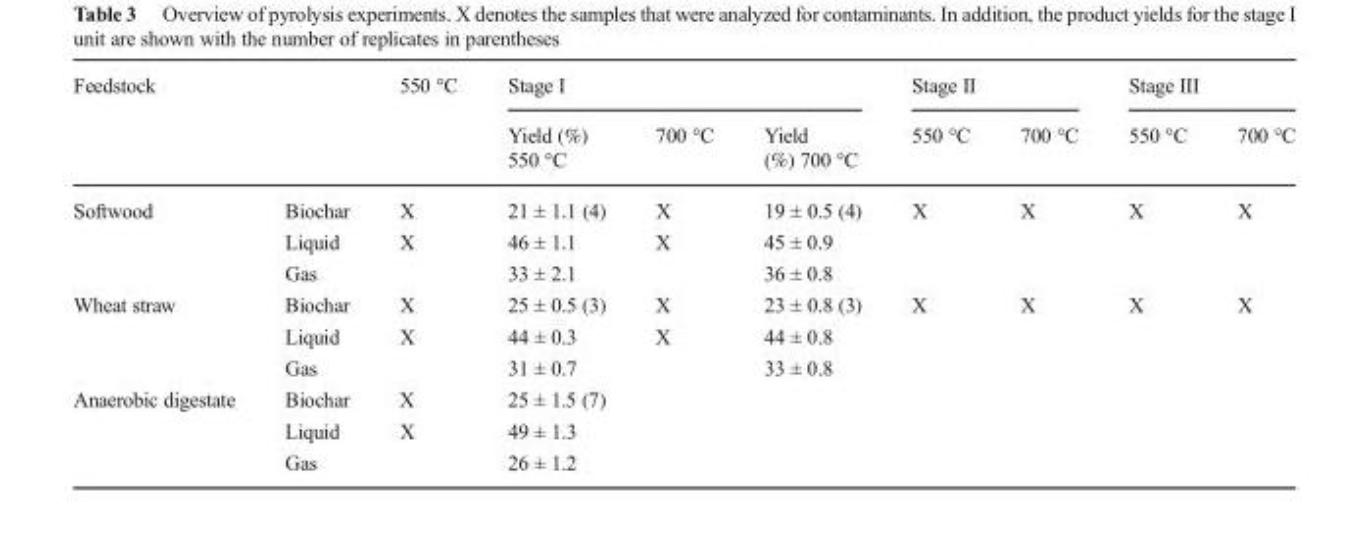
<table><thead><tr><td rowspan="2">Feedstock</td><td rowspan="2"></td><td rowspan="2">550 °C</td><td colspan="3">Stage I</td><td colspan="2">Stage II</td><td colspan="2">Stage III</td></tr><tr><td>Yield (%) 550 °C</td><td>700 °C</td><td>Yield (%) 700 °C</td><td>550 °C</td><td>700 °C</td><td>550 °C</td><td>700 °C</td></tr></thead><tbody><tr><td rowspan="3">Softwood</td><td>Biochar</td><td>X</td><td>21 ± 1.1 (4)</td><td>X</td><td>19 ± 0.5 (4)</td><td>X</td><td>X</td><td>X</td><td>X</td></tr><tr><td>Liquid</td><td>X</td><td>46 ± 1.1</td><td>X</td><td>45 ± 0.9</td><td></td><td></td><td></td><td></td></tr><tr><td>Gas</td><td></td><td>33 ± 2.1</td><td></td><td>36 ± 0.8</td><td></td><td></td><td></td><td></td></tr><tr><td rowspan="3">Wheat straw</td><td>Biochar</td><td>X</td><td>25 ± 0.5 (3)</td><td>X</td><td>23 ± 0.8 (3)</td><td>X</td><td>X</td><td>X</td><td>X</td></tr><tr><td>Liquid</td><td>X</td><td>44 ± 0.3</td><td>X</td><td>44 ± 0.8</td><td></td><td></td><td></td><td></td></tr><tr><td>Gas</td><td></td><td>31 ± 0.7</td><td></td><td>33 ± 0.8</td><td></td><td></td><td></td><td></td></tr><tr><td rowspan="3">Anaerobic digestate</td><td>Biochar</td><td>X</td><td>25 ± 1.5 (7)</td><td></td><td></td><td></td><td></td><td></td><td></td></tr><tr><td>Liquid</td><td>X</td><td>49 ± 1.3</td><td></td><td></td><td></td><td></td><td></td><td></td></tr><tr><td>Gas</td><td></td><td>26 ± 1.2</td><td></td><td></td><td></td><td></td><td></td><td></td></tr></tbody></table>